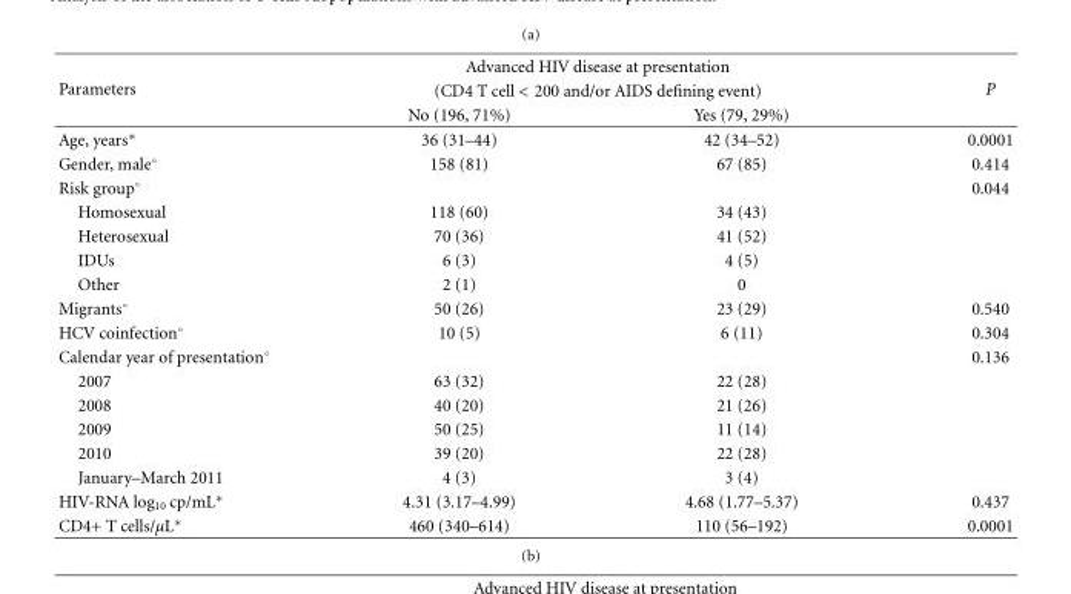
<table><tbody><tr><td rowspan="3">Parameters</td><td colspan="2">Advanced HIV disease at presentation</td><td rowspan="3">P</td></tr><tr><td colspan="2">(CD4 T cell &lt; 200 and/or AIDS defining event)</td></tr><tr><td>No (196, 71%)</td><td>Yes (79, 29%)</td></tr><tr><td>Age, years∗</td><td>36 (31–44)</td><td>42 (34–52)</td><td>0.0001</td></tr><tr><td>Gender, male◦</td><td>158 (81)</td><td>67 (85)</td><td>0.414</td></tr><tr><td>Risk group◦</td><td></td><td></td><td>0.044</td></tr><tr><td>Homosexual</td><td>118 (60)</td><td>34 (43)</td><td></td></tr><tr><td>Heterosexual</td><td>70 (36)</td><td>41 (52)</td><td></td></tr><tr><td>IDUs</td><td>6 (3)</td><td>4 (5)</td><td></td></tr><tr><td>Other</td><td>2 (1)</td><td>0</td><td></td></tr><tr><td>Migrants◦</td><td>50 (26)</td><td>23 (29)</td><td>0.540</td></tr><tr><td>HCV coinfection◦</td><td>10 (5)</td><td>6 (11)</td><td>0.304</td></tr><tr><td>Calendar year of presentation◦</td><td></td><td></td><td>0.136</td></tr><tr><td>2007</td><td>63 (32)</td><td>22 (28)</td><td></td></tr><tr><td>2008</td><td>40 (20)</td><td>21 (26)</td><td></td></tr><tr><td>2009</td><td>50 (25)</td><td>11 (14)</td><td></td></tr><tr><td>2010</td><td>39 (20)</td><td>22 (28)</td><td></td></tr><tr><td>January–March 2011</td><td>4 (3)</td><td>3 (4)</td><td></td></tr><tr><td>HIV-RNA log10 cp/mL∗</td><td>4.31 (3.17–4.99)</td><td>4.68 (1.77–5.37)</td><td>0.437</td></tr><tr><td>CD4+ T cells/μL∗</td><td>460 (340–614)</td><td>110 (56–192)</td><td>0.0001</td></tr></tbody></table>